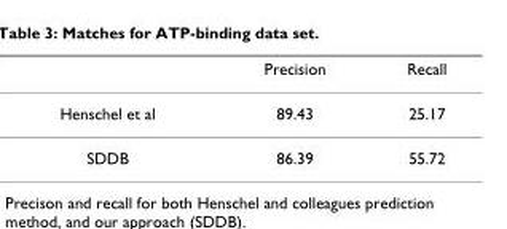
<table><thead><tr><td></td><td>Precision</td><td>Recall</td></tr></thead><tbody><tr><td>Henschel et al</td><td>89.43</td><td>25.17</td></tr><tr><td>SDDB</td><td>86.39</td><td>55.72</td></tr></tbody></table>